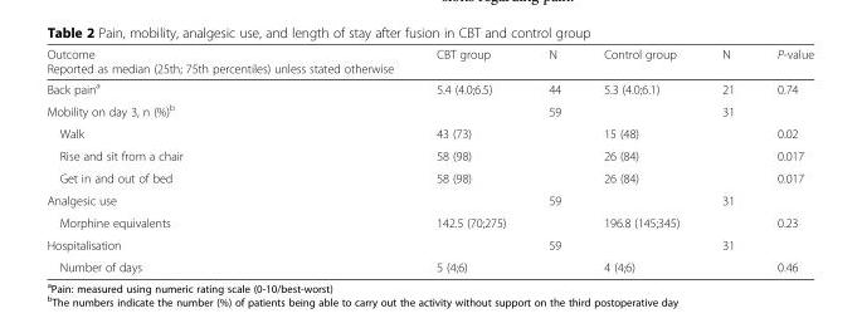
<table><thead><tr><td>Outcome Reported as median (25th; 75th percentiles) unless stated otherwise</td><td>CBT group</td><td>N</td><td>Control group</td><td>N</td><td>P-value</td></tr></thead><tbody><tr><td>Back pain<sup>a</sup></td><td>5.4 (4.0;6.5)</td><td>44</td><td>5.3 (4.0;6.1)</td><td>21</td><td>0.74</td></tr><tr><td>Mobility on day 3, n (%)<sup>b</sup></td><td></td><td>59</td><td></td><td>31</td><td></td></tr><tr><td>Walk</td><td>43 (73)</td><td></td><td>15 (48)</td><td></td><td>0.02</td></tr><tr><td>Rise and sit from a chair</td><td>58 (98)</td><td></td><td>26 (84)</td><td></td><td>0.017</td></tr><tr><td>Get in and out of bed</td><td>58 (98)</td><td></td><td>26 (84)</td><td></td><td>0.017</td></tr><tr><td>Analgesic use</td><td></td><td>59</td><td></td><td>31</td><td></td></tr><tr><td>Morphine equivalents</td><td>142.5 (70;275)</td><td></td><td>196.8 (145;345)</td><td></td><td>0.23</td></tr><tr><td>Hospitalisation</td><td></td><td>59</td><td></td><td>31</td><td></td></tr><tr><td>Number of days</td><td>5 (4;6)</td><td></td><td>4 (4;6)</td><td></td><td>0.46</td></tr></tbody></table>